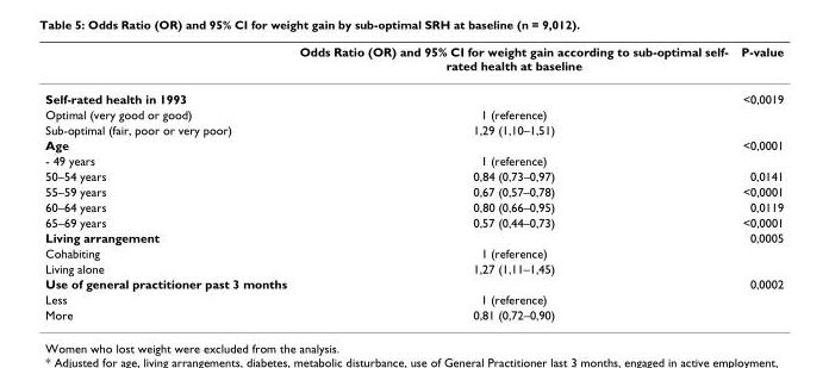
<table><thead><tr><td></td><td>Odds Ratio (OR) and 95% CI for weight gain according to sub-optimal self- rated health at baseline</td><td>P-value</td></tr></thead><tbody><tr><td>Self-rated health in 1993</td><td></td><td>&lt;0,0019</td></tr><tr><td>Optimal (very good or good)</td><td>1 (reference)</td><td></td></tr><tr><td>Sub-optimal (fair, poor or very poor)</td><td>1,29 (1,10–1,51)</td><td></td></tr><tr><td>Age</td><td></td><td>&lt;0,0001</td></tr><tr><td>- 49 years</td><td>1 (reference)</td><td></td></tr><tr><td>50–54 years</td><td>0,84 (0,73–0,97)</td><td>0,0141</td></tr><tr><td>55–59 years</td><td>0,67 (0,57–0,78)</td><td>&lt;0,0001</td></tr><tr><td>60–64 years</td><td>0,80 (0,66–0,95)</td><td>0,0119</td></tr><tr><td>65–69 years</td><td>0,57 (0,44–0,73)</td><td>&lt;0,0001</td></tr><tr><td>Living arrangement</td><td></td><td>0,0005</td></tr><tr><td>Cohabiting</td><td>1 (reference)</td><td></td></tr><tr><td>Living alone</td><td>1,27 (1,11–1,45)</td><td></td></tr><tr><td>Use of general practitioner past 3 months</td><td></td><td>0,0002</td></tr><tr><td>Less</td><td>1 (reference)</td><td></td></tr><tr><td>More</td><td>0,81 (0,72–0,90)</td><td></td></tr></tbody></table>